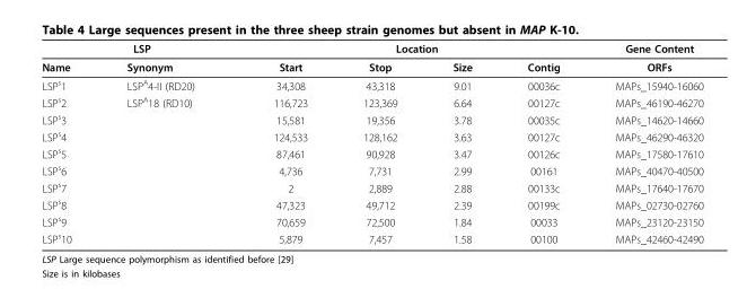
<table><thead><tr><td colspan="2">LSP</td><td colspan="4">Location</td><td rowspan="2">Gene Content ORFs</td></tr><tr><td>Name</td><td>Synonym</td><td>Start</td><td>Stop</td><td>Size</td><td>Contig</td></tr></thead><tbody><tr><td>LSP<sup>s</sup>1</td><td>LSP<sup>A</sup>4-II (RD20)</td><td>34,308</td><td>43,318</td><td>9.01</td><td>00036c</td><td>MAPs_15940-16060</td></tr><tr><td>LSP<sup>s</sup>2</td><td>LSP<sup>A</sup>18 (RD10)</td><td>116,723</td><td>123,369</td><td>6.64</td><td>00127c</td><td>MAPs_46190-46270</td></tr><tr><td>LSP<sup>s</sup>3</td><td></td><td>15,581</td><td>19,356</td><td>3.78</td><td>00035c</td><td>MAPs_14620-14660</td></tr><tr><td>LSP<sup>s</sup>4</td><td></td><td>124,533</td><td>128,162</td><td>3.63</td><td>00127c</td><td>MAPs_46290-46320</td></tr><tr><td>LSP<sup>s</sup>5</td><td></td><td>87,461</td><td>90,928</td><td>3.47</td><td>00126c</td><td>MAPs_17580-17610</td></tr><tr><td>LSP<sup>s</sup>6</td><td></td><td>4,736</td><td>7,731</td><td>2.99</td><td>00161</td><td>MAPs_40470-40500</td></tr><tr><td>LSP<sup>s</sup>7</td><td></td><td>2</td><td>2,889</td><td>2.88</td><td>00133c</td><td>MAPs_17640-17670</td></tr><tr><td>LSP<sup>s</sup>8</td><td></td><td>47,323</td><td>49,712</td><td>2.39</td><td>00199c</td><td>MAPs_02730-02760</td></tr><tr><td>LSP<sup>s</sup>9</td><td></td><td>70,659</td><td>72,500</td><td>1.84</td><td>00033</td><td>MAPs_23120-23150</td></tr><tr><td>LSP<sup>s</sup>10</td><td></td><td>5,879</td><td>7,457</td><td>1.58</td><td>00100</td><td>MAPs_42460-42490</td></tr></tbody></table>